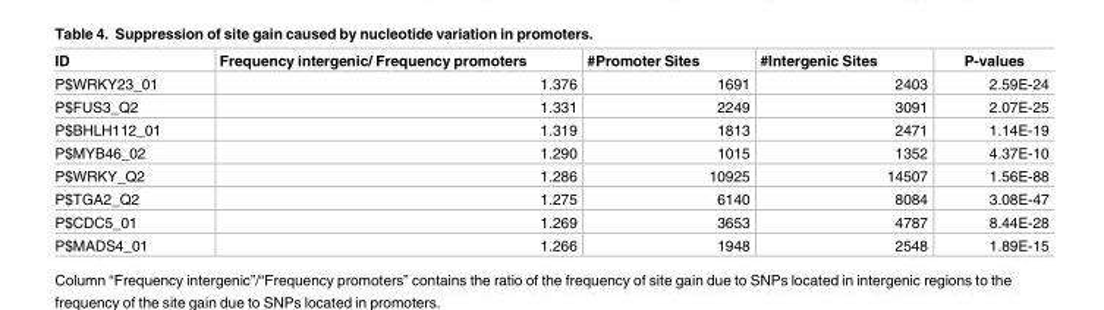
<table><thead><tr><td>ID</td><td>Frequency intergenic/ Frequency promoters</td><td>#Promoter Sites</td><td>#Intergenic Sites</td><td>P-values</td></tr></thead><tbody><tr><td>P$WRKY23_01</td><td>1.376</td><td>1691</td><td>2403</td><td>2.59E-24</td></tr><tr><td>P$FUS3_Q2</td><td>1.331</td><td>2249</td><td>3091</td><td>2.07E-25</td></tr><tr><td>P$BHLH112_01</td><td>1.319</td><td>1813</td><td>2471</td><td>1.14E-19</td></tr><tr><td>P$MYB46_02</td><td>1.290</td><td>1015</td><td>1352</td><td>4.37E-10</td></tr><tr><td>P$WRKY_Q2</td><td>1.286</td><td>10925</td><td>14507</td><td>1.56E-88</td></tr><tr><td>P$TGA2_Q2</td><td>1.275</td><td>6140</td><td>8084</td><td>3.08E-47</td></tr><tr><td>P$CDC5_01</td><td>1.269</td><td>3653</td><td>4787</td><td>8.44E-28</td></tr><tr><td>P$MADS4_01</td><td>1.266</td><td>1948</td><td>2548</td><td>1.89E-15</td></tr></tbody></table>